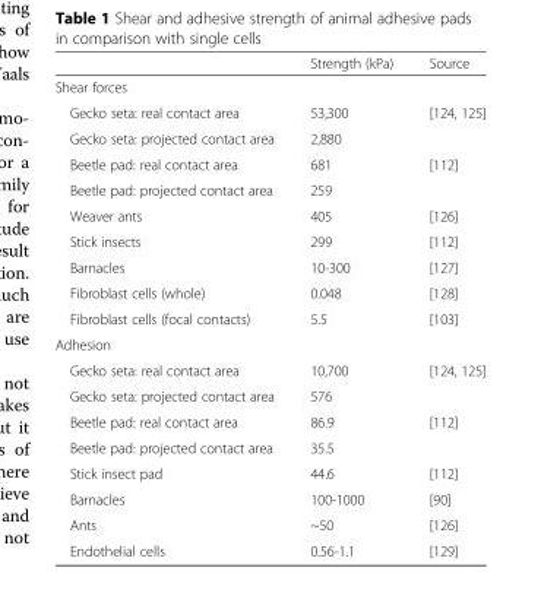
<table><thead><tr><td></td><td>Strength (kPa)</td><td>Source</td></tr></thead><tbody><tr><td colspan="3">Shear forces</td></tr><tr><td>Gecko seta: real contact area</td><td>53,300</td><td>[124, 125]</td></tr><tr><td>Gecko seta: projected contact area</td><td>2,880</td><td></td></tr><tr><td>Beetle pad: real contact area</td><td>681</td><td>[112]</td></tr><tr><td>Beetle pad: projected contact area</td><td>259</td><td></td></tr><tr><td>Weaver ants</td><td>405</td><td>[126]</td></tr><tr><td>Stick insects</td><td>299</td><td>[112]</td></tr><tr><td>Barnacles</td><td>10-300</td><td>[127]</td></tr><tr><td>Fibroblast cells (whole)</td><td>0.048</td><td>[128]</td></tr><tr><td>Fibroblast cells (focal contacts)</td><td>5.5</td><td>[103]</td></tr><tr><td colspan="3">Adhesion</td></tr><tr><td>Gecko seta: real contact area</td><td>10,700</td><td>[124, 125]</td></tr><tr><td>Gecko seta: projected contact area</td><td>576</td><td></td></tr><tr><td>Beetle pad: real contact area</td><td>86.9</td><td>[112]</td></tr><tr><td>Beetle pad: projected contact area</td><td>35.5</td><td></td></tr><tr><td>Stick insect pad</td><td>44.6</td><td>[112]</td></tr><tr><td>Barnacles</td><td>100-1000</td><td>[90]</td></tr><tr><td>Ants</td><td>~50</td><td>[126]</td></tr><tr><td>Endothelial cells</td><td>0.56-1.1</td><td>[129]</td></tr></tbody></table>